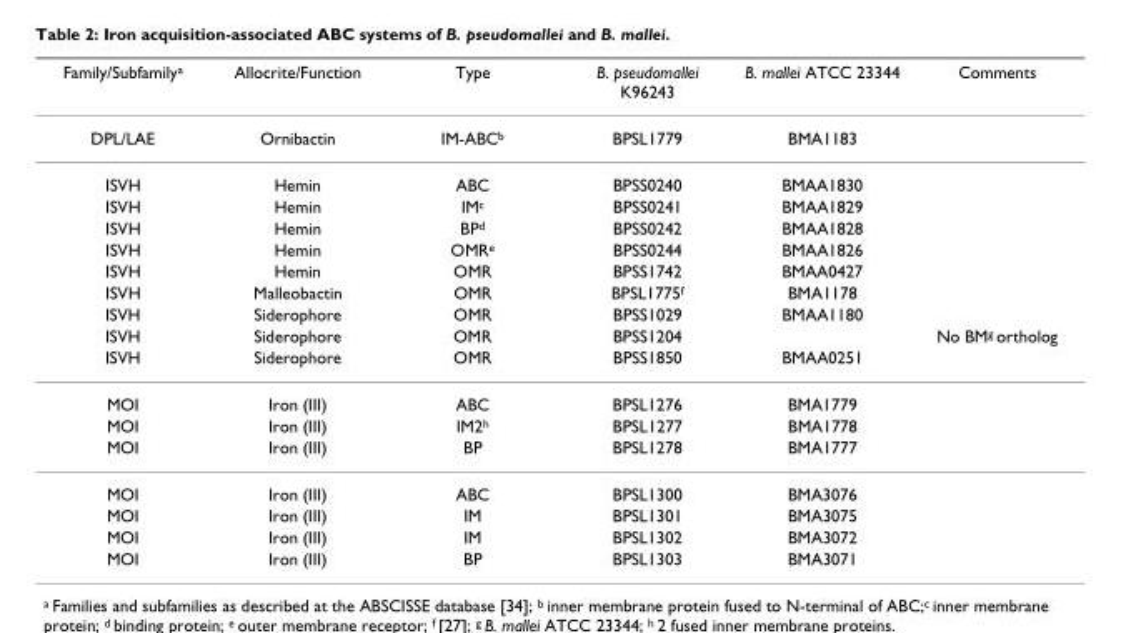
<table><thead><tr><td>Family/Subfamilya</td><td>Allocrite/Function</td><td>Type</td><td>B. pseudomallei K96243</td><td>B. mallei ATCC 23344</td><td>Comments</td></tr></thead><tbody><tr><td>DPL/LAE</td><td>Ornibactin</td><td>IM-ABCb</td><td>BPSL1779</td><td>BMA1183</td><td></td></tr><tr><td>ISVH</td><td>Hemin</td><td>ABC</td><td>BPSS0240</td><td>BMAA1830</td><td></td></tr><tr><td>ISVH</td><td>Hemin</td><td>IMc</td><td>BPSS0241</td><td>BMAA1829</td><td></td></tr><tr><td>ISVH</td><td>Hemin</td><td>BPd</td><td>BPSS0242</td><td>BMAA1828</td><td></td></tr><tr><td>ISVH</td><td>Hemin</td><td>OMRe</td><td>BPSS0244</td><td>BMAA1826</td><td></td></tr><tr><td>ISVH</td><td>Hemin</td><td>OMR</td><td>BPSS1742</td><td>BMAA0427</td><td></td></tr><tr><td>ISVH</td><td>Malleobactin</td><td>OMR</td><td>BPSL1775f</td><td>BMA1178</td><td></td></tr><tr><td>ISVH</td><td>Siderophore</td><td>OMR</td><td>BPSS1029</td><td>BMAA1180</td><td></td></tr><tr><td>ISVH</td><td>Siderophore</td><td>OMR</td><td>BPSS1204</td><td></td><td>No BMg ortholog</td></tr><tr><td>ISVH</td><td>Siderophore</td><td>OMR</td><td>BPSS1850</td><td>BMAA0251</td><td></td></tr><tr><td>MOI</td><td>Iron (III)</td><td>ABC</td><td>BPSL1276</td><td>BMA1779</td><td></td></tr><tr><td>MOI</td><td>Iron (III)</td><td>IM2h</td><td>BPSL1277</td><td>BMA1778</td><td></td></tr><tr><td>MOI</td><td>Iron (III)</td><td>BP</td><td>BPSL1278</td><td>BMA1777</td><td></td></tr><tr><td>MOI</td><td>Iron (III)</td><td>ABC</td><td>BPSL1300</td><td>BMA3076</td><td></td></tr><tr><td>MOI</td><td>Iron (III)</td><td>IM</td><td>BPSL1301</td><td>BMA3075</td><td></td></tr><tr><td>MOI</td><td>Iron (III)</td><td>IM</td><td>BPSL1302</td><td>BMA3072</td><td></td></tr><tr><td>MOI</td><td>Iron (III)</td><td>BP</td><td>BPSL1303</td><td>BMA3071</td><td></td></tr></tbody></table>